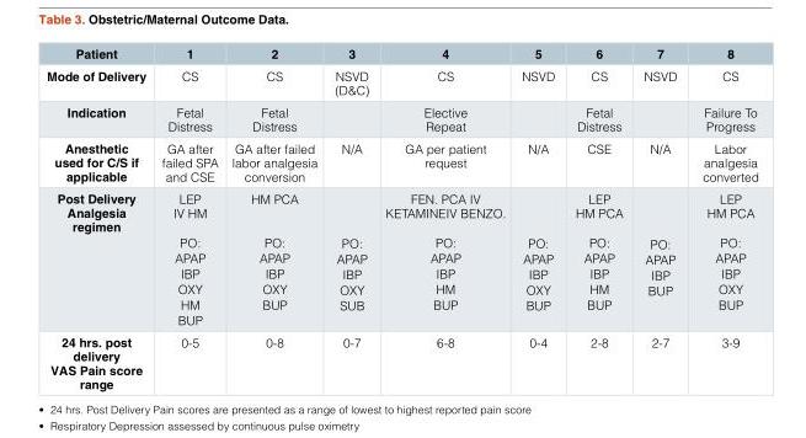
<table><thead><tr><td>Patient</td><td>1</td><td>2</td><td>3</td><td>4</td><td>5</td><td>6</td><td>7</td><td>8</td></tr></thead><tbody><tr><td>Mode of Delivery</td><td>CS</td><td>CS</td><td>NSVD (D&amp;C)</td><td>CS</td><td>NSVD</td><td>CS</td><td>NSVD</td><td>CS</td></tr><tr><td>Indication</td><td>Fetal Distress</td><td>Fetal Distress</td><td></td><td>Elective Repeat</td><td></td><td>Fetal Distress</td><td></td><td>Failure To Progress</td></tr><tr><td>Anesthetic used for C/S if applicable</td><td>GA after failed SPA and CSE</td><td>GA after failed labor analgesia conversion</td><td>N/A</td><td>GA per patient request</td><td>N/A</td><td>CSE</td><td>N/A</td><td>Labor analgesia converted</td></tr><tr><td>Post Delivery Analgesia regimen</td><td>LEP IV HM PO: APAP IBP OXY HM BUP</td><td>HM PCA PO: APAP IBP OXY BUP</td><td>PO: APAP IBP OXY SUB</td><td>FEN. PCA IV KETAMINEIV BENZO. PO: APAP IBP HM BUP</td><td>PO: APAP IBP OXY BUP</td><td>LEP HM PCA PO: APAP IBP HM BUP</td><td>PO: APAP IBP BUP</td><td>LEP HM PCA PO: APAP IBP OXY BUP</td></tr><tr><td>24 hrs. post delivery VAS Pain score range</td><td>0-5</td><td>0-8</td><td>0-7</td><td>6-8</td><td>0-4</td><td>2-8</td><td>2-7</td><td>3-9</td></tr></tbody></table>